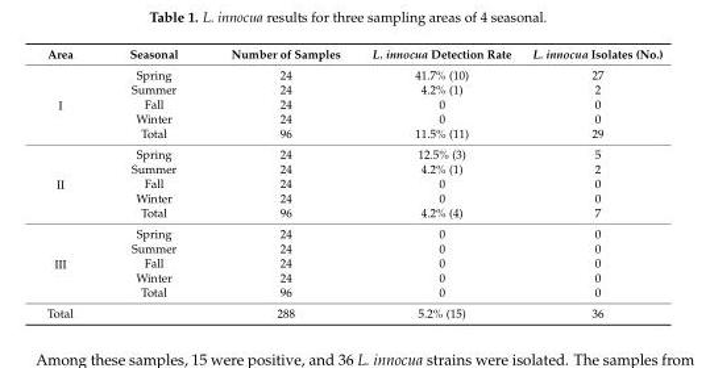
<table><thead><tr><td>Area</td><td>Seasonal</td><td>Number of Samples</td><td>L. innocua Detection Rate</td><td>L. innocua Isolates (No.)</td></tr></thead><tbody><tr><td rowspan="5">I</td><td>Spring</td><td>24</td><td>41.7% (10)</td><td>27</td></tr><tr><td>Summer</td><td>24</td><td>4.2% (1)</td><td>2</td></tr><tr><td>Fall</td><td>24</td><td>0</td><td>0</td></tr><tr><td>Winter</td><td>24</td><td>0</td><td>0</td></tr><tr><td>Total</td><td>96</td><td>11.5% (11)</td><td>29</td></tr><tr><td rowspan="5">II</td><td>Spring</td><td>24</td><td>12.5% (3)</td><td>5</td></tr><tr><td>Summer</td><td>24</td><td>4.2% (1)</td><td>2</td></tr><tr><td>Fall</td><td>24</td><td>0</td><td>0</td></tr><tr><td>Winter</td><td>24</td><td>0</td><td>0</td></tr><tr><td>Total</td><td>96</td><td>4.2% (4)</td><td>7</td></tr><tr><td rowspan="5">III</td><td>Spring</td><td>24</td><td>0</td><td>0</td></tr><tr><td>Summer</td><td>24</td><td>0</td><td>0</td></tr><tr><td>Fall</td><td>24</td><td>0</td><td>0</td></tr><tr><td>Winter</td><td>24</td><td>0</td><td>0</td></tr><tr><td>Total</td><td>96</td><td>0</td><td>0</td></tr><tr><td>Total</td><td></td><td>288</td><td>5.2% (15)</td><td>36</td></tr></tbody></table>